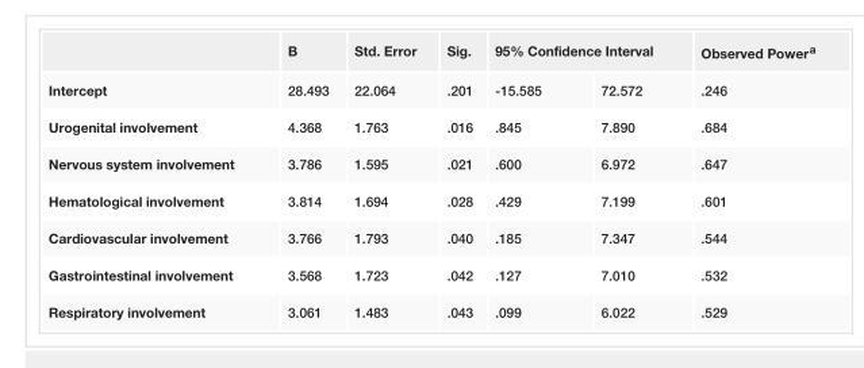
<table><thead><tr><td rowspan="2">Intercept</td><td rowspan="2">B 28.493</td><td rowspan="2">Std. Error 22.064</td><td rowspan="2">Sig. .201</td><td colspan="2">95% Confidence Interval</td><td rowspan="2">Observed Power<sup>a</sup> .246</td></tr><tr><td>-15.585</td><td>72.572</td></tr></thead><tbody><tr><td>Urogenital involvement</td><td>4.368</td><td>1.763</td><td>.016</td><td>.845</td><td>7.890</td><td>.684</td></tr><tr><td>Nervous system involvement</td><td>3.786</td><td>1.595</td><td>.021</td><td>.600</td><td>6.972</td><td>.647</td></tr><tr><td>Hematological involvement</td><td>3.814</td><td>1.694</td><td>.028</td><td>.429</td><td>7.199</td><td>.601</td></tr><tr><td>Cardiovascular involvement</td><td>3.766</td><td>1.793</td><td>.040</td><td>.185</td><td>7.347</td><td>.544</td></tr><tr><td>Gastrointestinal involvement</td><td>3.568</td><td>1.723</td><td>.042</td><td>.127</td><td>7.010</td><td>.532</td></tr><tr><td>Respiratory involvement</td><td>3.061</td><td>1.483</td><td>.043</td><td>.099</td><td>6.022</td><td>.529</td></tr></tbody></table>